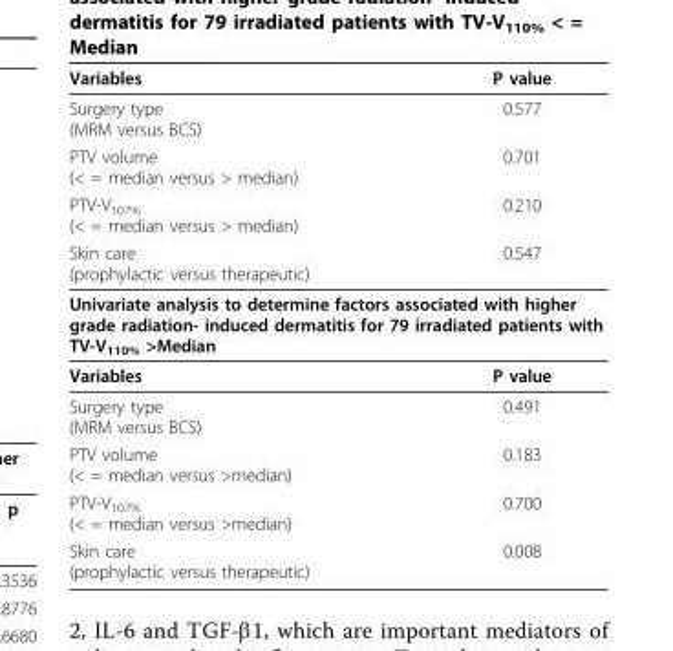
<table><thead><tr><td>Variables</td><td>P value</td></tr></thead><tbody><tr><td>Surgery type (MRM versus BCS)</td><td>0.577</td></tr><tr><td>PTV volume (&lt; = median versus &gt; median)</td><td>0.701</td></tr><tr><td>PTV-V<sub>107%</sub> (&lt; = median versus &gt; median)</td><td>0.210</td></tr><tr><td>Skin care (prophylactic versus therapeutic)</td><td>0.547</td></tr><tr><td colspan="2">Univariate analysis to determine factors associated with higher grade radiation- induced dermatitis for 79 irradiated patients with TV-V<sub>110%</sub> &gt;Median</td></tr><tr><td>Variables</td><td>P value</td></tr><tr><td>Surgery type (MRM versus BCS)</td><td>0.491</td></tr><tr><td>PTV volume (&lt; = median versus &gt;median)</td><td>0.183</td></tr><tr><td>PTV-V<sub>107%</sub> (&lt; = median versus &gt;median)</td><td>0.700</td></tr><tr><td>Skin care (prophylactic versus therapeutic)</td><td>0.008</td></tr></tbody></table>